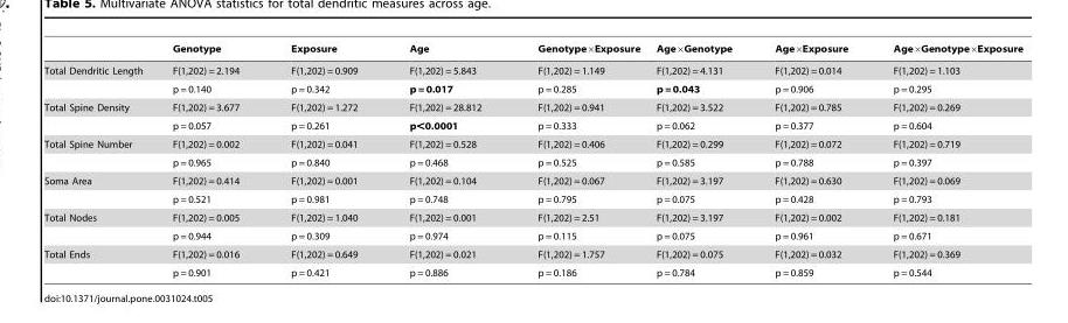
<table><thead><tr><td></td><td>Genotype</td><td>Exposure</td><td>Age</td><td>Genotype×Exposure</td><td>Age×Genotype</td><td>Age×Exposure</td><td>Age×Genotype×Exposure</td></tr></thead><tbody><tr><td rowspan="2">Total Dendritic Length</td><td>F(1,202) = 2.194</td><td>F(1,202) = 0.909</td><td>F(1,202) = 5.843</td><td>F(1,202) = 1.149</td><td>F(1,202) = 4.131</td><td>F(1,202) = 0.014</td><td>F(1,202) = 1.103</td></tr><tr><td>p = 0.140</td><td>p = 0.342</td><td>p = 0.017</td><td>p = 0.285</td><td>p = 0.043</td><td>p = 0.906</td><td>p = 0.295</td></tr><tr><td rowspan="2">Total Spine Density</td><td>F(1,202) = 3.677</td><td>F(1,202) = 1.272</td><td>F(1,202) = 28.812</td><td>F(1,202) = 0.941</td><td>F(1,202) = 3.522</td><td>F(1,202) = 0.785</td><td>F(1,202) = 0.269</td></tr><tr><td>p = 0.057</td><td>p = 0.261</td><td>p&lt;0.0001</td><td>p = 0.333</td><td>p = 0.062</td><td>p = 0.377</td><td>p = 0.604</td></tr><tr><td rowspan="2">Total Spine Number</td><td>F(1,202) = 0.002</td><td>F(1,202) = 0.041</td><td>F(1,202) = 0.528</td><td>F(1,202) = 0.406</td><td>F(1,202) = 0.299</td><td>F(1,202) = 0.072</td><td>F(1,202) = 0.719</td></tr><tr><td>p = 0.965</td><td>p = 0.840</td><td>p = 0.468</td><td>p = 0.525</td><td>p = 0.585</td><td>p = 0.788</td><td>p = 0.397</td></tr><tr><td rowspan="2">Soma Area</td><td>F(1,202) = 0.414</td><td>F(1,202) = 0.001</td><td>F(1,202) = 0.104</td><td>F(1,202) = 0.067</td><td>F(1,202) = 3.197</td><td>F(1,202) = 0.630</td><td>F(1,202) = 0.069</td></tr><tr><td>p = 0.521</td><td>p = 0.981</td><td>p = 0.748</td><td>p = 0.795</td><td>p = 0.075</td><td>p = 0.428</td><td>p = 0.793</td></tr><tr><td rowspan="2">Total Nodes</td><td>F(1,202) = 0.005</td><td>F(1,202) = 1.040</td><td>F(1,202) = 0.001</td><td>F(1,202) = 2.51</td><td>F(1,202) = 3.197</td><td>F(1,202) = 0.002</td><td>F(1,202) = 0.181</td></tr><tr><td>p = 0.944</td><td>p = 0.309</td><td>p = 0.974</td><td>p = 0.115</td><td>p = 0.075</td><td>p = 0.961</td><td>p = 0.671</td></tr><tr><td rowspan="2">Total Ends</td><td>F(1,202) = 0.016</td><td>F(1,202) = 0.649</td><td>F(1,202) = 0.021</td><td>F(1,202) = 1.757</td><td>F(1,202) = 0.075</td><td>F(1,202) = 0.032</td><td>F(1,202) = 0.369</td></tr><tr><td>p = 0.901</td><td>p = 0.421</td><td>p = 0.886</td><td>p = 0.186</td><td>p = 0.784</td><td>p = 0.859</td><td>p = 0.544</td></tr></tbody></table>